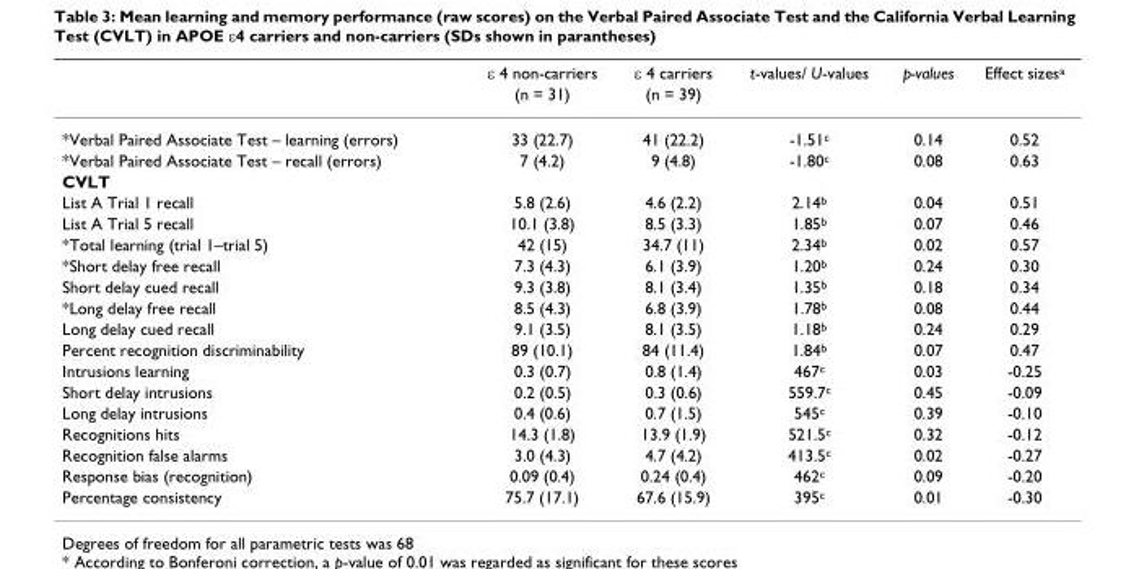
<table><thead><tr><td rowspan="2"></td><td rowspan="2">ε 4 non-carriers (n = 31)</td><td rowspan="2">ε 4 carriers (n = 39)</td><td rowspan="2">t-values/ U-values</td><td rowspan="2">p-values</td><td rowspan="2">Effect sizes<sup>a</sup></td></tr><tr></tr></thead><tbody><tr><td>*Verbal Paired Associate Test – learning (errors)</td><td>33 (22.7)</td><td>41 (22.2)</td><td>-1.51<sup>c</sup></td><td>0.14</td><td>0.52</td></tr><tr><td>*Verbal Paired Associate Test – recall (errors)</td><td>7 (4.2)</td><td>9 (4.8)</td><td>-1.80<sup>c</sup></td><td>0.08</td><td>0.63</td></tr><tr><td colspan="6">CVLT</td></tr><tr><td>List A Trial 1 recall</td><td>5.8 (2.6)</td><td>4.6 (2.2)</td><td>2.14<sup>b</sup></td><td>0.04</td><td>0.51</td></tr><tr><td>List A Trial 5 recall</td><td>10.1 (3.8)</td><td>8.5 (3.3)</td><td>1.85<sup>b</sup></td><td>0.07</td><td>0.46</td></tr><tr><td>*Total learning (trial 1–trial 5)</td><td>42 (15)</td><td>34.7 (11)</td><td>2.34<sup>b</sup></td><td>0.02</td><td>0.57</td></tr><tr><td>*Short delay free recall</td><td>7.3 (4.3)</td><td>6.1 (3.9)</td><td>1.20<sup>b</sup></td><td>0.24</td><td>0.30</td></tr><tr><td>Short delay cued recall</td><td>9.3 (3.8)</td><td>8.1 (3.4)</td><td>1.35<sup>b</sup></td><td>0.18</td><td>0.34</td></tr><tr><td>*Long delay free recall</td><td>8.5 (4.3)</td><td>6.8 (3.9)</td><td>1.78<sup>b</sup></td><td>0.08</td><td>0.44</td></tr><tr><td>Long delay cued recall</td><td>9.1 (3.5)</td><td>8.1 (3.5)</td><td>1.18<sup>b</sup></td><td>0.24</td><td>0.29</td></tr><tr><td>Percent recognition discriminability</td><td>89 (10.1)</td><td>84 (11.4)</td><td>1.84<sup>b</sup></td><td>0.07</td><td>0.47</td></tr><tr><td>Intrusions learning</td><td>0.3 (0.7)</td><td>0.8 (1.4)</td><td>467<sup>c</sup></td><td>0.03</td><td>-0.25</td></tr><tr><td>Short delay intrusions</td><td>0.2 (0.5)</td><td>0.3 (0.6)</td><td>559.7<sup>c</sup></td><td>0.45</td><td>-0.09</td></tr><tr><td>Long delay intrusions</td><td>0.4 (0.6)</td><td>0.7 (1.5)</td><td>545<sup>c</sup></td><td>0.39</td><td>-0.10</td></tr><tr><td>Recognitions hits</td><td>14.3 (1.8)</td><td>13.9 (1.9)</td><td>521.5<sup>c</sup></td><td>0.32</td><td>-0.12</td></tr><tr><td>Recognition false alarms</td><td>3.0 (4.3)</td><td>4.7 (4.2)</td><td>413.5<sup>c</sup></td><td>0.02</td><td>-0.27</td></tr><tr><td>Response bias (recognition)</td><td>0.09 (0.4)</td><td>0.24 (0.4)</td><td>462<sup>c</sup></td><td>0.09</td><td>-0.20</td></tr><tr><td>Percentage consistency</td><td>75.7 (17.1)</td><td>67.6 (15.9)</td><td>395<sup>c</sup></td><td>0.01</td><td>-0.30</td></tr></tbody></table>